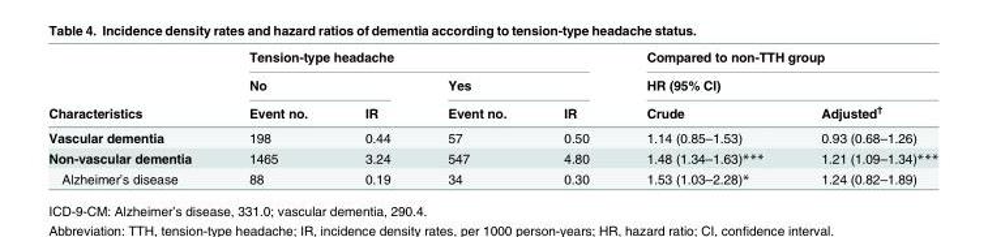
<table><thead><tr><td rowspan="3">Characteristics</td><td colspan="4">Tension-type headache</td><td rowspan="2" colspan="2">Compared to non-TTH group HR (95% CI)</td></tr><tr><td colspan="2">No</td><td colspan="2">Yes</td></tr><tr><td>Event no.</td><td>IR</td><td>Event no.</td><td>IR</td><td>Crude</td><td>Adjusted<sup>†</sup></td></tr></thead><tbody><tr><td>Vascular dementia</td><td>198</td><td>0.44</td><td>57</td><td>0.50</td><td>1.14 (0.85–1.53)</td><td>0.93 (0.68–1.26)</td></tr><tr><td>Non-vascular dementia</td><td>1465</td><td>3.24</td><td>547</td><td>4.80</td><td>1.48 (1.34–1.63)***</td><td>1.21 (1.09–1.34)***</td></tr><tr><td>Alzheimer’s disease</td><td>88</td><td>0.19</td><td>34</td><td>0.30</td><td>1.53 (1.03–2.28)*</td><td>1.24 (0.82–1.89)</td></tr></tbody></table>